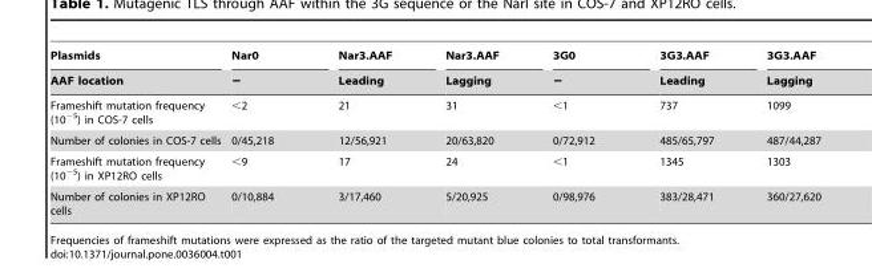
<table><thead><tr><td rowspan="2">Plasmids AAF location</td><td rowspan="2">Nar0 −</td><td rowspan="2">Nar3.AAF Leading</td><td rowspan="2">Nar3.AAF Lagging</td><td rowspan="2">3G0 −</td><td rowspan="2">3G3.AAF Leading</td><td rowspan="2">3G3.AAF Lagging</td></tr><tr></tr></thead><tbody><tr><td>Frameshift mutation frequency (10<sup>−5</sup>) in COS-7 cells</td><td>&lt;2</td><td>21</td><td>31</td><td>&lt;1</td><td>737</td><td>1099</td></tr><tr><td>Number of colonies in COS-7 cells</td><td>0/45,218</td><td>12/56,921</td><td>20/63,820</td><td>0/72,912</td><td>485/65,797</td><td>487/44,287</td></tr><tr><td>Frameshift mutation frequency (10<sup>−5</sup>) in XP12RO cells</td><td>&lt;9</td><td>17</td><td>24</td><td>&lt;1</td><td>1345</td><td>1303</td></tr><tr><td>Number of colonies in XP12RO cells</td><td>0/10,884</td><td>3/17,460</td><td>5/20,925</td><td>0/98,976</td><td>383/28,471</td><td>360/27,620</td></tr></tbody></table>